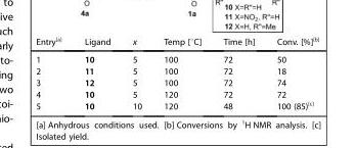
<table><thead><tr><td>Entry<sup>[a]</sup></td><td>Ligand</td><td>x</td><td>Temp [°C]</td><td>Time [h]</td><td>Conv. [%]<sup>[b]</sup></td></tr></thead><tbody><tr><td>1</td><td>10</td><td>5</td><td>100</td><td>72</td><td>50</td></tr><tr><td>2</td><td>11</td><td>5</td><td>100</td><td>72</td><td>18</td></tr><tr><td>3</td><td>12</td><td>5</td><td>100</td><td>72</td><td>74</td></tr><tr><td>4</td><td>10</td><td>5</td><td>120</td><td>72</td><td>72</td></tr><tr><td>5</td><td>10</td><td>10</td><td>120</td><td>48</td><td>100 (85)<sup>[c]</sup></td></tr></tbody></table>